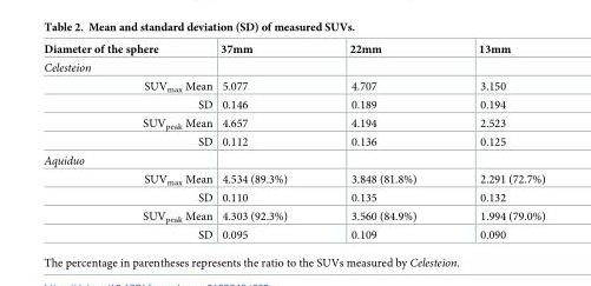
<table><thead><tr><td>Diameter of the sphere</td><td>37mm</td><td>22mm</td><td>13mm</td></tr></thead><tbody><tr><td colspan="4">Celesteion</td></tr><tr><td>SUV<sub>max</sub> Mean</td><td>5.077</td><td>4.707</td><td>3.150</td></tr><tr><td>SD</td><td>0.146</td><td>0.189</td><td>0.194</td></tr><tr><td>SUV<sub>peak</sub> Mean</td><td>4.657</td><td>4.194</td><td>2.523</td></tr><tr><td>SD</td><td>0.112</td><td>0.136</td><td>0.125</td></tr><tr><td colspan="4">Aquiduo</td></tr><tr><td>SUV<sub>max</sub> Mean</td><td>4.534 (89.3%)</td><td>3.848 (81.8%)</td><td>2.291 (72.7%)</td></tr><tr><td>SD</td><td>0.110</td><td>0.135</td><td>0.132</td></tr><tr><td>SUV<sub>peak</sub> Mean</td><td>4.303 (92.3%)</td><td>3.560 (84.9%)</td><td>1.994 (79.0%)</td></tr><tr><td>SD</td><td>0.095</td><td>0.109</td><td>0.090</td></tr></tbody></table>